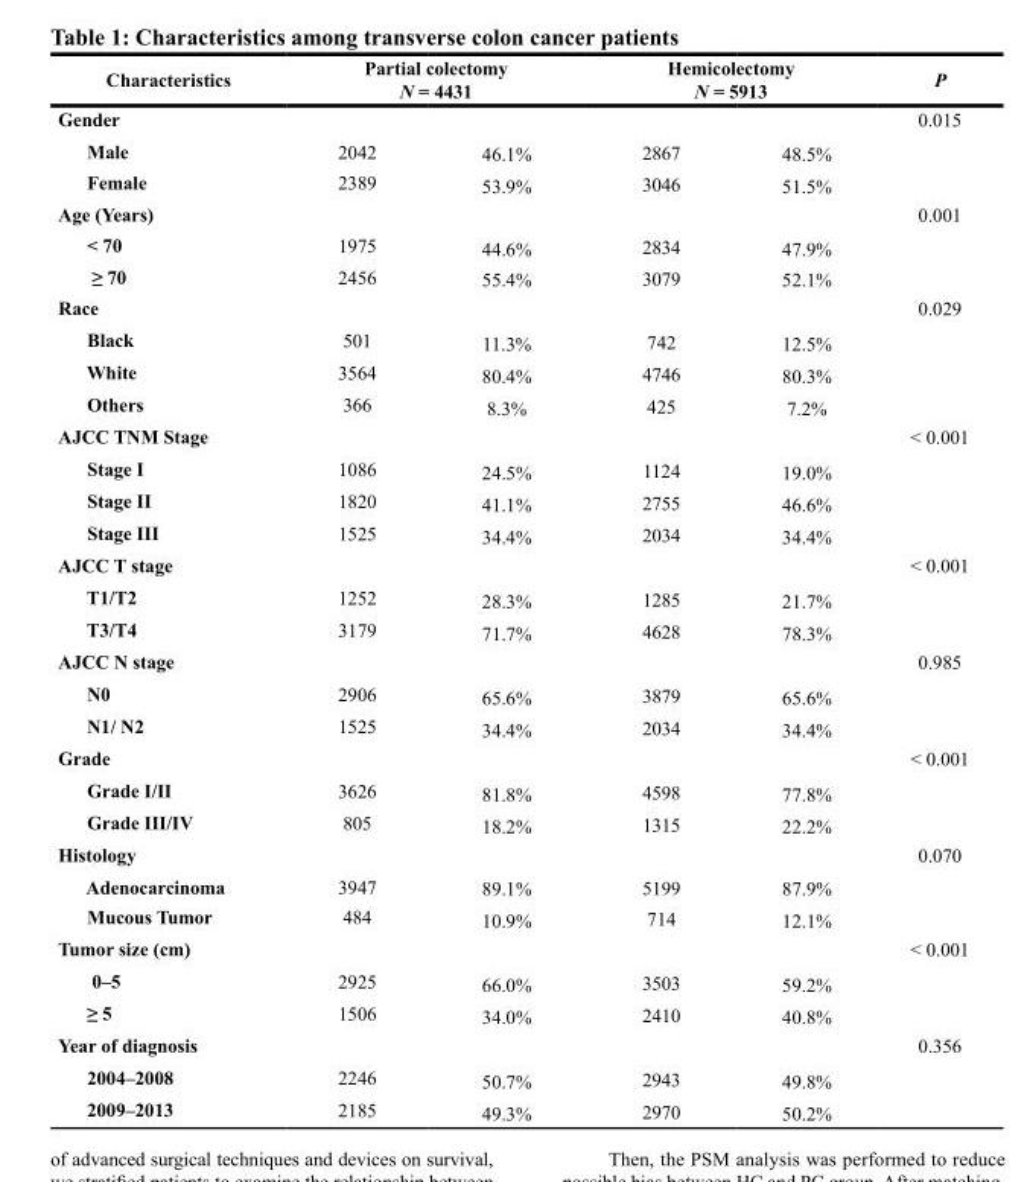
<table><thead><tr><td rowspan="2">Characteristics Gender</td><td colspan="2">Partial colectomy N = 4431</td><td colspan="2">Hemicolectomy N = 5913</td><td rowspan="2">P 0.015</td></tr><tr><td></td><td></td><td></td><td></td></tr></thead><tbody><tr><td>Male</td><td>2042</td><td>46.1%</td><td>2867</td><td>48.5%</td><td></td></tr><tr><td>Female</td><td>2389</td><td>53.9%</td><td>3046</td><td>51.5%</td><td></td></tr><tr><td>Age (Years)</td><td></td><td></td><td></td><td></td><td>0.001</td></tr><tr><td>&lt; 70</td><td>1975</td><td>44.6%</td><td>2834</td><td>47.9%</td><td></td></tr><tr><td>≥ 70</td><td>2456</td><td>55.4%</td><td>3079</td><td>52.1%</td><td></td></tr><tr><td>Race</td><td></td><td></td><td></td><td></td><td>0.029</td></tr><tr><td>Black</td><td>501</td><td>11.3%</td><td>742</td><td>12.5%</td><td></td></tr><tr><td>White</td><td>3564</td><td>80.4%</td><td>4746</td><td>80.3%</td><td></td></tr><tr><td>Others</td><td>366</td><td>8.3%</td><td>425</td><td>7.2%</td><td></td></tr><tr><td>AJCC TNM Stage</td><td></td><td></td><td></td><td></td><td>&lt; 0.001</td></tr><tr><td>Stage I</td><td>1086</td><td>24.5%</td><td>1124</td><td>19.0%</td><td></td></tr><tr><td>Stage II</td><td>1820</td><td>41.1%</td><td>2755</td><td>46.6%</td><td></td></tr><tr><td>Stage III</td><td>1525</td><td>34.4%</td><td>2034</td><td>34.4%</td><td></td></tr><tr><td>AJCC T stage</td><td></td><td></td><td></td><td></td><td>&lt; 0.001</td></tr><tr><td>T1/T2</td><td>1252</td><td>28.3%</td><td>1285</td><td>21.7%</td><td></td></tr><tr><td>T3/T4</td><td>3179</td><td>71.7%</td><td>4628</td><td>78.3%</td><td></td></tr><tr><td>AJCC N stage</td><td></td><td></td><td></td><td></td><td>0.985</td></tr><tr><td>N0</td><td>2906</td><td>65.6%</td><td>3879</td><td>65.6%</td><td></td></tr><tr><td>N1/ N2</td><td>1525</td><td>34.4%</td><td>2034</td><td>34.4%</td><td></td></tr><tr><td>Grade</td><td></td><td></td><td></td><td></td><td>&lt; 0.001</td></tr><tr><td>Grade I/II</td><td>3626</td><td>81.8%</td><td>4598</td><td>77.8%</td><td></td></tr><tr><td>Grade III/IV</td><td>805</td><td>18.2%</td><td>1315</td><td>22.2%</td><td></td></tr><tr><td>Histology</td><td></td><td></td><td></td><td></td><td>0.070</td></tr><tr><td>Adenocarcinoma</td><td>3947</td><td>89.1%</td><td>5199</td><td>87.9%</td><td></td></tr><tr><td>Mucous Tumor</td><td>484</td><td>10.9%</td><td>714</td><td>12.1%</td><td></td></tr><tr><td>Tumor size (cm)</td><td></td><td></td><td></td><td></td><td>&lt; 0.001</td></tr><tr><td>0–5</td><td>2925</td><td>66.0%</td><td>3503</td><td>59.2%</td><td></td></tr><tr><td>≥ 5</td><td>1506</td><td>34.0%</td><td>2410</td><td>40.8%</td><td></td></tr><tr><td>Year of diagnosis</td><td></td><td></td><td></td><td></td><td>0.356</td></tr><tr><td>2004–2008</td><td>2246</td><td>50.7%</td><td>2943</td><td>49.8%</td><td></td></tr><tr><td>2009–2013</td><td>2185</td><td>49.3%</td><td>2970</td><td>50.2%</td><td></td></tr></tbody></table>